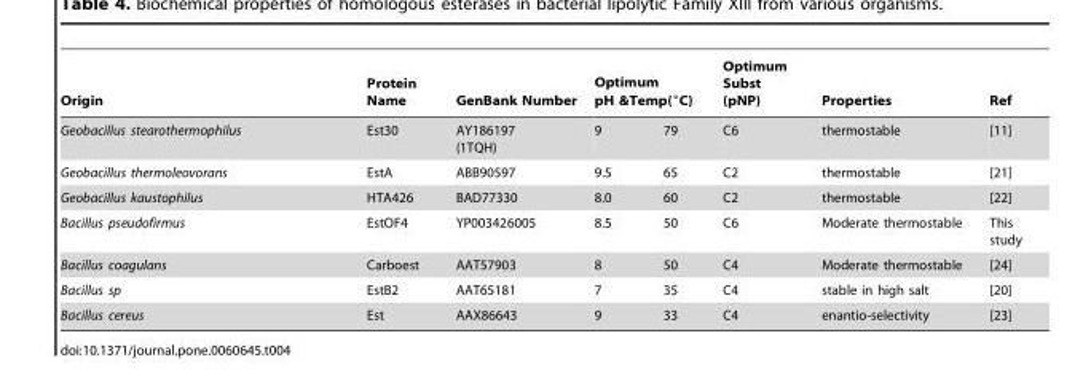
<table><thead><tr><td rowspan="2">Origin Geobacillus stearothermophilus</td><td rowspan="2">Protein Name Est30</td><td rowspan="2">GenBank Number AY186197 (1TQH)</td><td colspan="2">Optimum pH &amp;Temp(°C)</td><td rowspan="2">Optimum Subst (pNP) C6</td><td rowspan="2">Properties thermostable</td><td rowspan="2">Ref [11]</td></tr><tr><td>9</td><td>79</td></tr></thead><tbody><tr><td>Geobacillus thermoleovorans</td><td>EstA</td><td>ABB90597</td><td>9.5</td><td>65</td><td>C2</td><td>thermostable</td><td>[21]</td></tr><tr><td>Geobacillus kaustophilus</td><td>HTA426</td><td>BAD77330</td><td>8.0</td><td>60</td><td>C2</td><td>thermostable</td><td>[22]</td></tr><tr><td>Bacillus pseudofirmus</td><td>EstOF4</td><td>YP003426005</td><td>8.5</td><td>50</td><td>C6</td><td>Moderate thermostable</td><td>This study</td></tr><tr><td>Bacillus coagulans</td><td>Carboest</td><td>AAT57903</td><td>8</td><td>50</td><td>C4</td><td>Moderate thermostable</td><td>[24]</td></tr><tr><td>Bacillus sp</td><td>EstB2</td><td>AAT65181</td><td>7</td><td>35</td><td>C4</td><td>stable in high salt</td><td>[20]</td></tr><tr><td>Bacillus cereus</td><td>Est</td><td>AAX86643</td><td>9</td><td>33</td><td>C4</td><td>enantio-selectivity</td><td>[23]</td></tr></tbody></table>